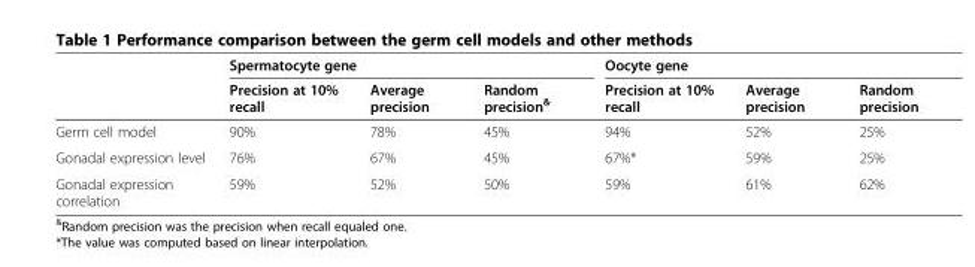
<table><thead><tr><td rowspan="2"></td><td colspan="3">Spermatocyte gene</td><td colspan="3">Oocyte gene</td></tr><tr><td>Precision at 10% recall</td><td>Average precision</td><td>Random precision<sup>&amp;</sup></td><td>Precision at 10% recall</td><td>Average precision</td><td>Random precision</td></tr></thead><tbody><tr><td>Germ cell model</td><td>90%</td><td>78%</td><td>45%</td><td>94%</td><td>52%</td><td>25%</td></tr><tr><td>Gonadal expression level</td><td>76%</td><td>67%</td><td>45%</td><td>67%*</td><td>59%</td><td>25%</td></tr><tr><td>Gonadal expression correlation</td><td>59%</td><td>52%</td><td>50%</td><td>59%</td><td>61%</td><td>62%</td></tr></tbody></table>